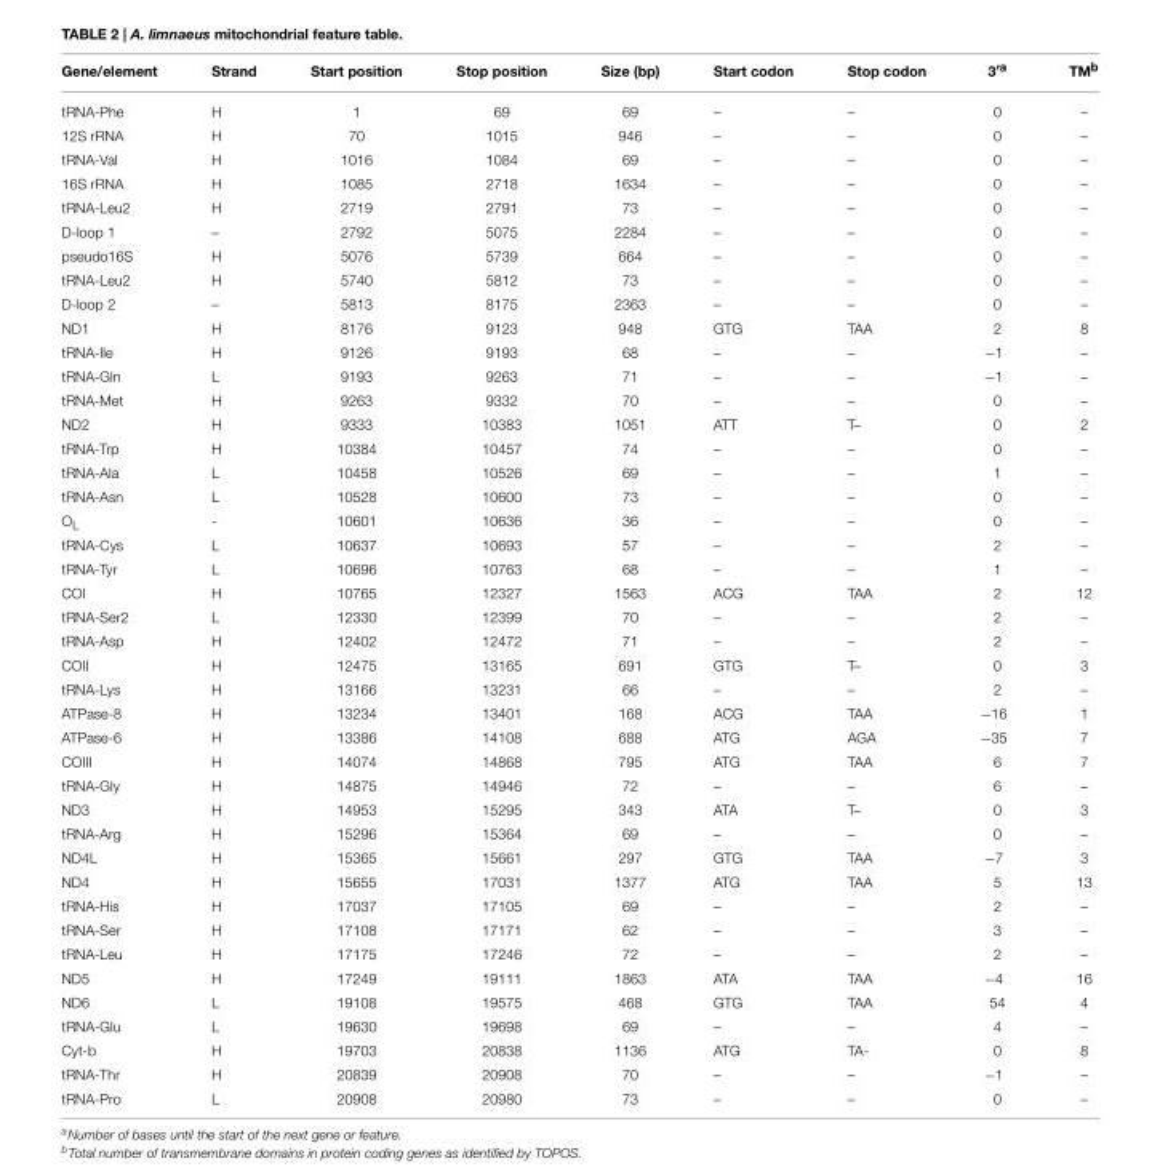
<table><thead><tr><td>Gene/element</td><td>Strand</td><td>Start position</td><td>Stop position</td><td>Size (bp)</td><td>Start codon</td><td>Stop codon</td><td>3′<sup>a</sup></td><td>TM<sup>b</sup></td></tr></thead><tbody><tr><td>tRNA-Phe</td><td>H</td><td>1</td><td>69</td><td>69</td><td>–</td><td>–</td><td>0</td><td>–</td></tr><tr><td>12S rRNA</td><td>H</td><td>70</td><td>1015</td><td>946</td><td>–</td><td>–</td><td>0</td><td>–</td></tr><tr><td>tRNA-Val</td><td>H</td><td>1016</td><td>1084</td><td>69</td><td>–</td><td>–</td><td>0</td><td>–</td></tr><tr><td>16S rRNA</td><td>H</td><td>1085</td><td>2718</td><td>1634</td><td>–</td><td>–</td><td>0</td><td>–</td></tr><tr><td>tRNA-Leu2</td><td>H</td><td>2719</td><td>2791</td><td>73</td><td>–</td><td>–</td><td>0</td><td>–</td></tr><tr><td>D-loop 1</td><td>–</td><td>2792</td><td>5075</td><td>2284</td><td>–</td><td>–</td><td>0</td><td>–</td></tr><tr><td>pseudo16S</td><td>H</td><td>5076</td><td>5739</td><td>664</td><td>–</td><td>–</td><td>0</td><td>–</td></tr><tr><td>tRNA-Leu2</td><td>H</td><td>5740</td><td>5812</td><td>73</td><td>–</td><td>–</td><td>0</td><td>–</td></tr><tr><td>D-loop 2</td><td>–</td><td>5813</td><td>8175</td><td>2363</td><td>–</td><td>–</td><td>0</td><td>–</td></tr><tr><td>ND1</td><td>H</td><td>8176</td><td>9123</td><td>948</td><td>GTG</td><td>TAA</td><td>2</td><td>8</td></tr><tr><td>tRNA-Ile</td><td>H</td><td>9126</td><td>9193</td><td>68</td><td>–</td><td>–</td><td>−1</td><td>–</td></tr><tr><td>tRNA-Gln</td><td>L</td><td>9193</td><td>9263</td><td>71</td><td>–</td><td>–</td><td>−1</td><td>–</td></tr><tr><td>tRNA-Met</td><td>H</td><td>9263</td><td>9332</td><td>70</td><td>–</td><td>–</td><td>0</td><td>–</td></tr><tr><td>ND2</td><td>H</td><td>9333</td><td>10383</td><td>1051</td><td>ATT</td><td>T–</td><td>0</td><td>2</td></tr><tr><td>tRNA-Trp</td><td>H</td><td>10384</td><td>10457</td><td>74</td><td>–</td><td>–</td><td>0</td><td>–</td></tr><tr><td>tRNA-Ala</td><td>L</td><td>10458</td><td>10526</td><td>69</td><td>–</td><td>–</td><td>1</td><td>–</td></tr><tr><td>tRNA-Asn</td><td>L</td><td>10528</td><td>10600</td><td>73</td><td>–</td><td>–</td><td>0</td><td>–</td></tr><tr><td>O<sub>L</sub></td><td>-</td><td>10601</td><td>10636</td><td>36</td><td>–</td><td>–</td><td>0</td><td>–</td></tr><tr><td>tRNA-Cys</td><td>L</td><td>10637</td><td>10693</td><td>57</td><td>–</td><td>–</td><td>2</td><td>–</td></tr><tr><td>tRNA-Tyr</td><td>L</td><td>10696</td><td>10763</td><td>68</td><td>–</td><td>–</td><td>1</td><td>–</td></tr><tr><td>COI</td><td>H</td><td>10765</td><td>12327</td><td>1563</td><td>ACG</td><td>TAA</td><td>2</td><td>12</td></tr><tr><td>tRNA-Ser2</td><td>L</td><td>12330</td><td>12399</td><td>70</td><td>–</td><td>–</td><td>2</td><td>–</td></tr><tr><td>tRNA-Asp</td><td>H</td><td>12402</td><td>12472</td><td>71</td><td>–</td><td>–</td><td>2</td><td>–</td></tr><tr><td>COII</td><td>H</td><td>12475</td><td>13165</td><td>691</td><td>GTG</td><td>T–</td><td>0</td><td>3</td></tr><tr><td>tRNA-Lys</td><td>H</td><td>13166</td><td>13231</td><td>66</td><td>–</td><td>–</td><td>2</td><td>–</td></tr><tr><td>ATPase-8</td><td>H</td><td>13234</td><td>13401</td><td>168</td><td>ACG</td><td>TAA</td><td>−16</td><td>1</td></tr><tr><td>ATPase-6</td><td>H</td><td>13386</td><td>14108</td><td>688</td><td>ATG</td><td>AGA</td><td>−35</td><td>7</td></tr><tr><td>COIII</td><td>H</td><td>14074</td><td>14868</td><td>795</td><td>ATG</td><td>TAA</td><td>6</td><td>7</td></tr><tr><td>tRNA-Gly</td><td>H</td><td>14875</td><td>14946</td><td>72</td><td>–</td><td>–</td><td>6</td><td>–</td></tr><tr><td>ND3</td><td>H</td><td>14953</td><td>15295</td><td>343</td><td>ATA</td><td>T–</td><td>0</td><td>3</td></tr><tr><td>tRNA-Arg</td><td>H</td><td>15296</td><td>15364</td><td>69</td><td>–</td><td>–</td><td>0</td><td>–</td></tr><tr><td>ND4L</td><td>H</td><td>15365</td><td>15661</td><td>297</td><td>GTG</td><td>TAA</td><td>−7</td><td>3</td></tr><tr><td>ND4</td><td>H</td><td>15655</td><td>17031</td><td>1377</td><td>ATG</td><td>TAA</td><td>5</td><td>13</td></tr><tr><td>tRNA-His</td><td>H</td><td>17037</td><td>17105</td><td>69</td><td>–</td><td>–</td><td>2</td><td>–</td></tr><tr><td>tRNA-Ser</td><td>H</td><td>17108</td><td>17171</td><td>62</td><td>–</td><td>–</td><td>3</td><td>–</td></tr><tr><td>tRNA-Leu</td><td>H</td><td>17175</td><td>17246</td><td>72</td><td>–</td><td>–</td><td>2</td><td>–</td></tr><tr><td>ND5</td><td>H</td><td>17249</td><td>19111</td><td>1863</td><td>ATA</td><td>TAA</td><td>−4</td><td>16</td></tr><tr><td>ND6</td><td>L</td><td>19108</td><td>19575</td><td>468</td><td>GTG</td><td>TAA</td><td>54</td><td>4</td></tr><tr><td>tRNA-Glu</td><td>L</td><td>19630</td><td>19698</td><td>69</td><td>–</td><td>–</td><td>4</td><td>–</td></tr><tr><td>Cyt-b</td><td>H</td><td>19703</td><td>20838</td><td>1136</td><td>ATG</td><td>TA-</td><td>0</td><td>8</td></tr><tr><td>tRNA-Thr</td><td>H</td><td>20839</td><td>20908</td><td>70</td><td>–</td><td>–</td><td>−1</td><td>–</td></tr><tr><td>tRNA-Pro</td><td>L</td><td>20908</td><td>20980</td><td>73</td><td>–</td><td>–</td><td>0</td><td>–</td></tr></tbody></table>